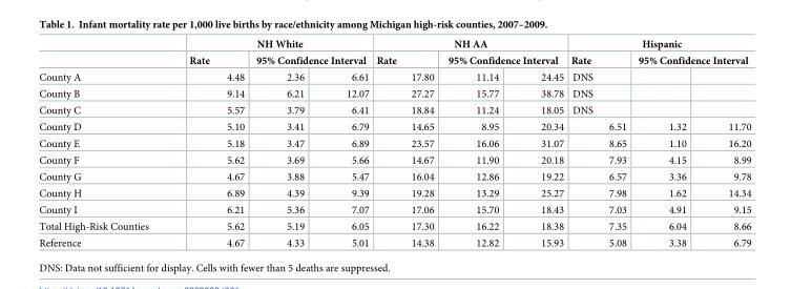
<table><thead><tr><td rowspan="3">County A</td><td colspan="3">NH White</td><td colspan="3">NH AA</td><td colspan="3">Hispanic</td></tr><tr><td rowspan="2">Rate 4.48</td><td colspan="2">95% Confidence Interval</td><td rowspan="2">Rate 17.80</td><td colspan="2">95% Confidence Interval</td><td rowspan="2">Rate DNS</td><td colspan="2">95% Confidence Interval</td></tr><tr><td>2.36</td><td>6.61</td><td>11.14</td><td>24.45</td><td></td><td></td></tr></thead><tbody><tr><td>County B</td><td>9.14</td><td>6.21</td><td>12.07</td><td>27.27</td><td>15.77</td><td>38.78</td><td>DNS</td><td></td><td></td></tr><tr><td>County C</td><td>5.57</td><td>3.79</td><td>6.41</td><td>18.84</td><td>11.24</td><td>18.05</td><td>DNS</td><td></td><td></td></tr><tr><td>County D</td><td>5.10</td><td>3.41</td><td>6.79</td><td>14.65</td><td>8.95</td><td>20.34</td><td>6.51</td><td>1.32</td><td>11.70</td></tr><tr><td>County E</td><td>5.18</td><td>3.47</td><td>6.89</td><td>23.57</td><td>16.06</td><td>31.07</td><td>8.65</td><td>1.10</td><td>16.20</td></tr><tr><td>County F</td><td>5.62</td><td>3.69</td><td>5.66</td><td>14.67</td><td>11.90</td><td>20.18</td><td>7.93</td><td>4.15</td><td>8.99</td></tr><tr><td>County G</td><td>4.67</td><td>3.88</td><td>5.47</td><td>16.04</td><td>12.86</td><td>19.22</td><td>6.57</td><td>3.36</td><td>9.78</td></tr><tr><td>County H</td><td>6.89</td><td>4.39</td><td>9.39</td><td>19.28</td><td>13.29</td><td>25.27</td><td>7.98</td><td>1.62</td><td>14.34</td></tr><tr><td>County I</td><td>6.21</td><td>5.36</td><td>7.07</td><td>17.06</td><td>15.70</td><td>18.43</td><td>7.03</td><td>4.91</td><td>9.15</td></tr><tr><td>Total High-Risk Counties</td><td>5.62</td><td>5.19</td><td>6.05</td><td>17.30</td><td>16.22</td><td>18.38</td><td>7.35</td><td>6.04</td><td>8.66</td></tr><tr><td>Reference</td><td>4.67</td><td>4.33</td><td>5.01</td><td>14.38</td><td>12.82</td><td>15.93</td><td>5.08</td><td>3.38</td><td>6.79</td></tr></tbody></table>